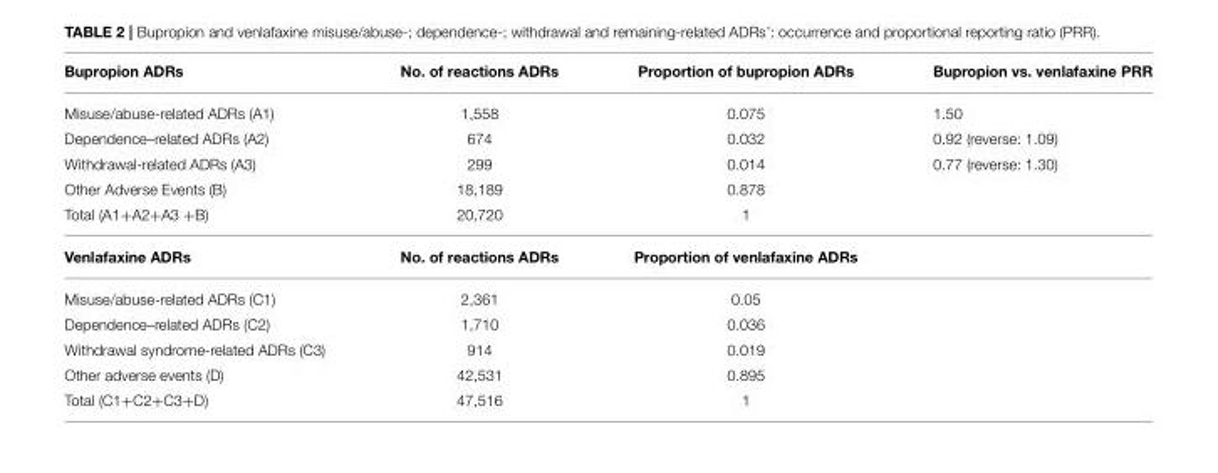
<table><thead><tr><td>Bupropion ADRs</td><td>No. of reactions ADRs</td><td>Proportion of bupropion ADRs</td><td>Bupropion vs. venlafaxine PRR</td></tr></thead><tbody><tr><td>Misuse/abuse-related ADRs (A1)</td><td>1,558</td><td>0.075</td><td>1.50</td></tr><tr><td>Dependence–related ADRs (A2)</td><td>674</td><td>0.032</td><td>0.92 (reverse: 1.09)</td></tr><tr><td>Withdrawal-related ADRs (A3)</td><td>299</td><td>0.014</td><td>0.77 (reverse: 1.30)</td></tr><tr><td>Other Adverse Events (B)</td><td>18,189</td><td>0.878</td><td></td></tr><tr><td>Total (A1+A2+A3 +B)</td><td>20,720</td><td>1</td><td></td></tr><tr><td>Venlafaxine ADRs</td><td>No. of reactions ADRs</td><td>Proportion of venlafaxine ADRs</td><td></td></tr><tr><td>Misuse/abuse-related ADRs (C1)</td><td>2,361</td><td>0.05</td><td></td></tr><tr><td>Dependence–related ADRs (C2)</td><td>1,710</td><td>0.036</td><td></td></tr><tr><td>Withdrawal syndrome-related ADRs (C3)</td><td>914</td><td>0.019</td><td></td></tr><tr><td>Other adverse events (D)</td><td>42,531</td><td>0.895</td><td></td></tr><tr><td>Total (C1+C2+C3+D)</td><td>47,516</td><td>1</td><td></td></tr></tbody></table>